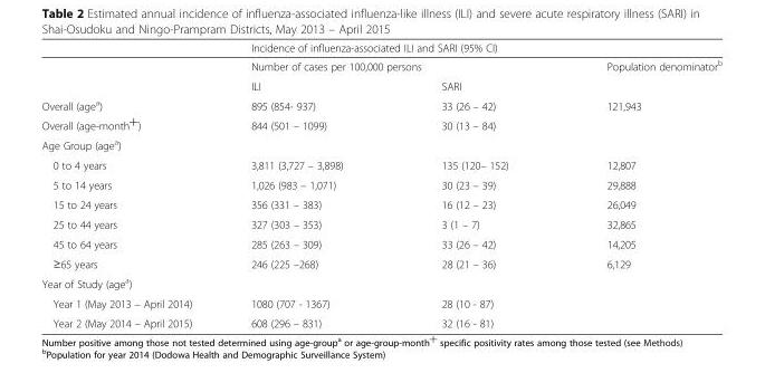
<table><thead><tr><td rowspan="3"></td><td rowspan="2" colspan="2">Incidence of influenza-associated ILI and SARI (95% CI) Number of cases per 100,000 persons</td><td rowspan="3">Population denominator<sup>b</sup></td></tr><tr></tr><tr><td>ILI</td><td>SARI</td></tr></thead><tbody><tr><td>Overall (age<sup>a</sup>)</td><td>895 (854- 937)</td><td>33 (26 – 42)</td><td>121,943</td></tr><tr><td>Overall (age-month<sup>┼</sup>)</td><td>844 (501 – 1099)</td><td>30 (13 – 84)</td><td></td></tr><tr><td colspan="4">Age Group (age<sup>a</sup>)</td></tr><tr><td>0 to 4 years</td><td>3,811 (3,727 – 3,898)</td><td>135 (120– 152)</td><td>12,807</td></tr><tr><td>5 to 14 years</td><td>1,026 (983 – 1,071)</td><td>30 (23 – 39)</td><td>29,888</td></tr><tr><td>15 to 24 years</td><td>356 (331 – 383)</td><td>16 (12 – 23)</td><td>26,049</td></tr><tr><td>25 to 44 years</td><td>327 (303 – 353)</td><td>3 (1 – 7)</td><td>32,865</td></tr><tr><td>45 to 64 years</td><td>285 (263 – 309)</td><td>33 (26 – 42)</td><td>14,205</td></tr><tr><td>≥65 years</td><td>246 (225 –268)</td><td>28 (21 – 36)</td><td>6,129</td></tr><tr><td colspan="4">Year of Study (age<sup>a</sup>)</td></tr><tr><td>Year 1 (May 2013 – April 2014)</td><td>1080 (707 - 1367)</td><td>28 (10 - 87)</td><td></td></tr><tr><td>Year 2 (May 2014 – April 2015)</td><td>608 (296 – 831)</td><td>32 (16 - 81)</td><td></td></tr></tbody></table>